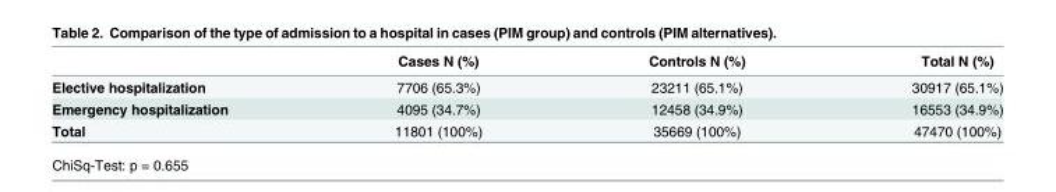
<table><thead><tr><td></td><td>Cases N (%)</td><td>Controls N (%)</td><td>Total N (%)</td></tr></thead><tbody><tr><td>Elective hospitalization</td><td>7706 (65.3%)</td><td>23211 (65.1%)</td><td>30917 (65.1%)</td></tr><tr><td>Emergency hospitalization</td><td>4095 (34.7%)</td><td>12458 (34.9%)</td><td>16553 (34.9%)</td></tr><tr><td>Total</td><td>11801 (100%)</td><td>35669 (100%)</td><td>47470 (100%)</td></tr></tbody></table>